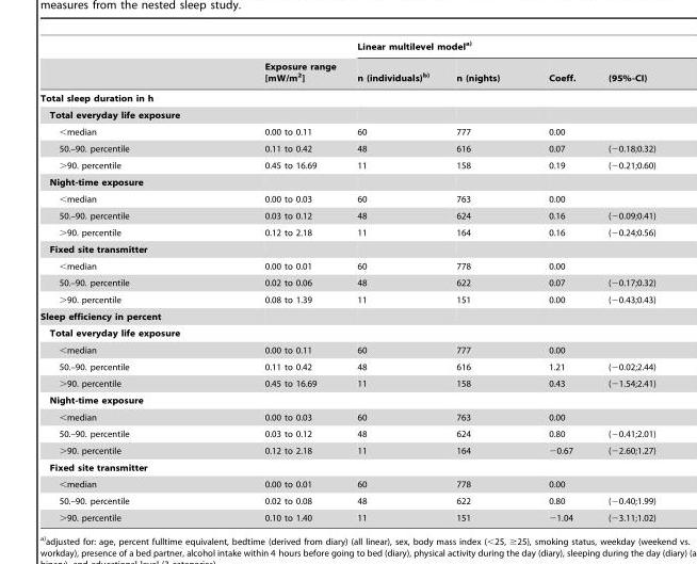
<table><thead><tr><td rowspan="2"></td><td rowspan="2">Exposure range [mW/m<sup>2</sup>]</td><td colspan="4">Linear multilevel modela)</td></tr><tr><td>n (individuals)b)</td><td>n (nights)</td><td>Coeff.</td><td>(95%-CI)</td></tr></thead><tbody><tr><td colspan="6">Total sleep duration in h</td></tr><tr><td colspan="6">Total everyday life exposure</td></tr><tr><td>&lt;median</td><td>0.00 to 0.11</td><td>60</td><td>777</td><td>0.00</td><td></td></tr><tr><td>50.–90. percentile</td><td>0.11 to 0.42</td><td>48</td><td>616</td><td>0.07</td><td>(−0.18;0.32)</td></tr><tr><td>&gt;90. percentile</td><td>0.45 to 16.69</td><td>11</td><td>158</td><td>0.19</td><td>(−0.21;0.60)</td></tr><tr><td colspan="6">Night-time exposure</td></tr><tr><td>&lt;median</td><td>0.00 to 0.03</td><td>60</td><td>763</td><td>0.00</td><td></td></tr><tr><td>50.–90. percentile</td><td>0.03 to 0.12</td><td>48</td><td>624</td><td>0.16</td><td>(−0.09;0.41)</td></tr><tr><td>&gt;90. percentile</td><td>0.12 to 2.18</td><td>11</td><td>164</td><td>0.16</td><td>(−0.24;0.56)</td></tr><tr><td colspan="6">Fixed site transmitter</td></tr><tr><td>&lt;median</td><td>0.00 to 0.01</td><td>60</td><td>778</td><td>0.00</td><td></td></tr><tr><td>50.–90. percentile</td><td>0.02 to 0.06</td><td>48</td><td>622</td><td>0.07</td><td>(−0.17;0.32)</td></tr><tr><td>&gt;90. percentile</td><td>0.08 to 1.39</td><td>11</td><td>151</td><td>0.00</td><td>(−0.43;0.43)</td></tr><tr><td colspan="6">Sleep efficiency in percent</td></tr><tr><td colspan="6">Total everyday life exposure</td></tr><tr><td>&lt;median</td><td>0.00 to 0.11</td><td>60</td><td>777</td><td>0.00</td><td></td></tr><tr><td>50.–90. percentile</td><td>0.11 to 0.42</td><td>48</td><td>616</td><td>1.21</td><td>(−0.02;2.44)</td></tr><tr><td>&gt;90. percentile</td><td>0.45 to 16.69</td><td>11</td><td>158</td><td>0.43</td><td>(−1.54;2.41)</td></tr><tr><td colspan="6">Night-time exposure</td></tr><tr><td>&lt;median</td><td>0.00 to 0.03</td><td>60</td><td>763</td><td>0.00</td><td></td></tr><tr><td>50.–90. percentile</td><td>0.03 to 0.12</td><td>48</td><td>624</td><td>0.80</td><td>(−0.41;2.01)</td></tr><tr><td>&gt;90. percentile</td><td>0.12 to 2.18</td><td>11</td><td>164</td><td>−0.67</td><td>(−2.60;1.27)</td></tr><tr><td colspan="6">Fixed site transmitter</td></tr><tr><td>&lt;median</td><td>0.00 to 0.01</td><td>60</td><td>778</td><td>0.00</td><td></td></tr><tr><td>50.–90. percentile</td><td>0.02 to 0.08</td><td>48</td><td>622</td><td>0.80</td><td>(−0.40;1.99)</td></tr><tr><td>&gt;90. percentile</td><td>0.10 to 1.40</td><td>11</td><td>151</td><td>−1.04</td><td>(−3.11;1.02)</td></tr></tbody></table>